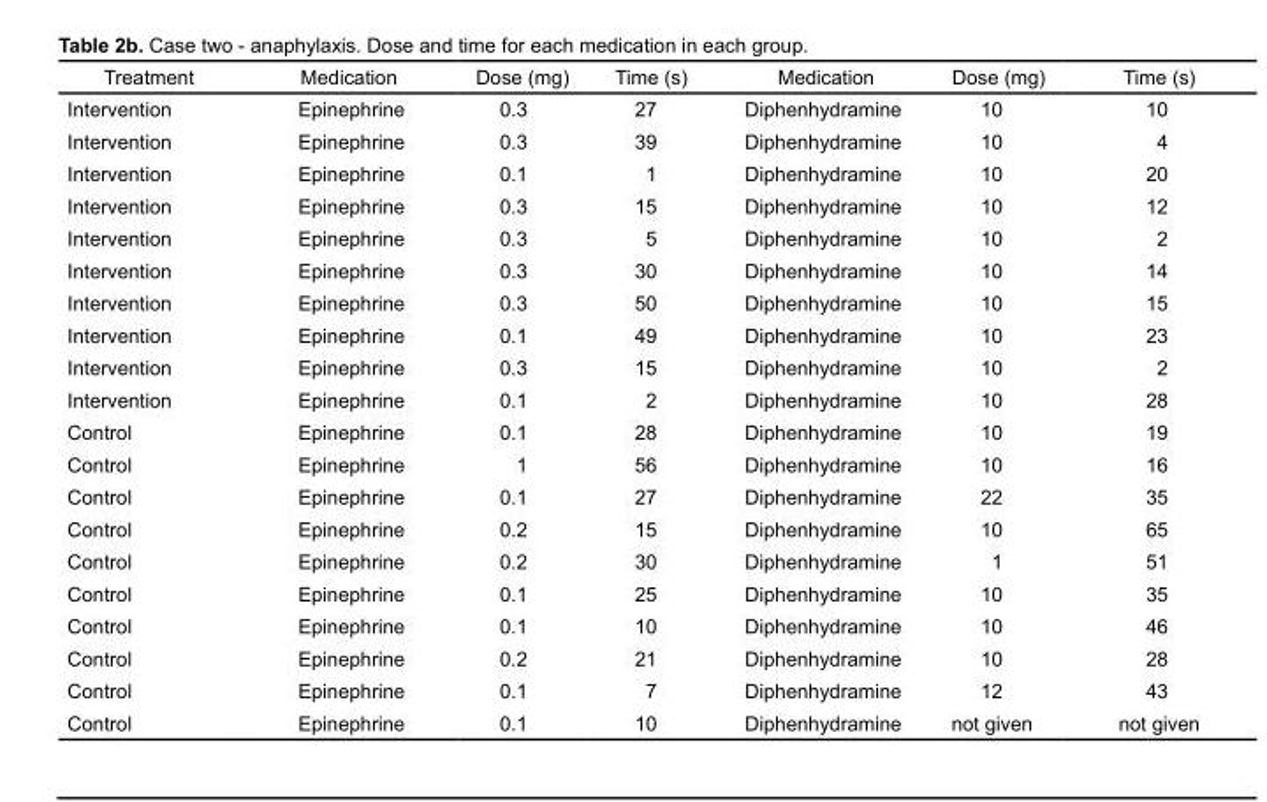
<table><thead><tr><td>Treatment</td><td>Medication</td><td>Dose (mg)</td><td>Time (s)</td><td>Medication</td><td>Dose (mg)</td><td>Time (s)</td></tr></thead><tbody><tr><td>Intervention</td><td>Epinephrine</td><td>0.3</td><td>27</td><td>Diphenhydramine</td><td>10</td><td>10</td></tr><tr><td>Intervention</td><td>Epinephrine</td><td>0.3</td><td>39</td><td>Diphenhydramine</td><td>10</td><td>4</td></tr><tr><td>Intervention</td><td>Epinephrine</td><td>0.1</td><td>1</td><td>Diphenhydramine</td><td>10</td><td>20</td></tr><tr><td>Intervention</td><td>Epinephrine</td><td>0.3</td><td>15</td><td>Diphenhydramine</td><td>10</td><td>12</td></tr><tr><td>Intervention</td><td>Epinephrine</td><td>0.3</td><td>5</td><td>Diphenhydramine</td><td>10</td><td>2</td></tr><tr><td>Intervention</td><td>Epinephrine</td><td>0.3</td><td>30</td><td>Diphenhydramine</td><td>10</td><td>14</td></tr><tr><td>Intervention</td><td>Epinephrine</td><td>0.3</td><td>50</td><td>Diphenhydramine</td><td>10</td><td>15</td></tr><tr><td>Intervention</td><td>Epinephrine</td><td>0.1</td><td>49</td><td>Diphenhydramine</td><td>10</td><td>23</td></tr><tr><td>Intervention</td><td>Epinephrine</td><td>0.3</td><td>15</td><td>Diphenhydramine</td><td>10</td><td>2</td></tr><tr><td>Intervention</td><td>Epinephrine</td><td>0.1</td><td>2</td><td>Diphenhydramine</td><td>10</td><td>28</td></tr><tr><td>Control</td><td>Epinephrine</td><td>0.1</td><td>28</td><td>Diphenhydramine</td><td>10</td><td>19</td></tr><tr><td>Control</td><td>Epinephrine</td><td>1</td><td>56</td><td>Diphenhydramine</td><td>10</td><td>16</td></tr><tr><td>Control</td><td>Epinephrine</td><td>0.1</td><td>27</td><td>Diphenhydramine</td><td>22</td><td>35</td></tr><tr><td>Control</td><td>Epinephrine</td><td>0.2</td><td>15</td><td>Diphenhydramine</td><td>10</td><td>65</td></tr><tr><td>Control</td><td>Epinephrine</td><td>0.2</td><td>30</td><td>Diphenhydramine</td><td>1</td><td>51</td></tr><tr><td>Control</td><td>Epinephrine</td><td>0.1</td><td>25</td><td>Diphenhydramine</td><td>10</td><td>35</td></tr><tr><td>Control</td><td>Epinephrine</td><td>0.1</td><td>10</td><td>Diphenhydramine</td><td>10</td><td>46</td></tr><tr><td>Control</td><td>Epinephrine</td><td>0.2</td><td>21</td><td>Diphenhydramine</td><td>10</td><td>28</td></tr><tr><td>Control</td><td>Epinephrine</td><td>0.1</td><td>7</td><td>Diphenhydramine</td><td>12</td><td>43</td></tr><tr><td>Control</td><td>Epinephrine</td><td>0.1</td><td>10</td><td>Diphenhydramine</td><td>not given</td><td>not given</td></tr></tbody></table>